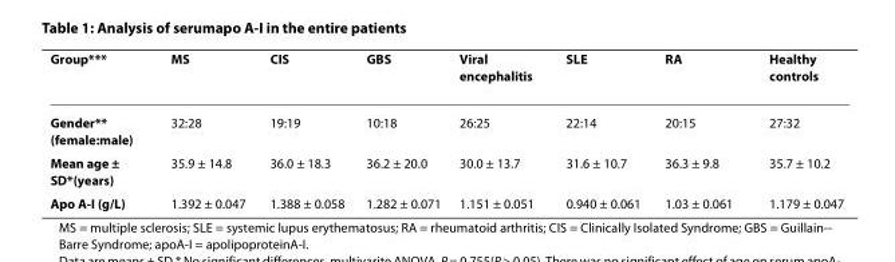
<table><thead><tr><td>Group***</td><td>MS</td><td>CIS</td><td>GBS</td><td>Viral encephalitis</td><td>SLE</td><td>RA</td><td>Healthy controls</td></tr></thead><tbody><tr><td>Gender** (female:male)</td><td>32:28</td><td>19:19</td><td>10:18</td><td>26:25</td><td>22:14</td><td>20:15</td><td>27:32</td></tr><tr><td>Mean age ± SD*(years)</td><td>35.9 ± 14.8</td><td>36.0 ± 18.3</td><td>36.2 ± 20.0</td><td>30.0 ± 13.7</td><td>31.6 ± 10.7</td><td>36.3 ± 9.8</td><td>35.7 ± 10.2</td></tr><tr><td>Apo A-I (g/L)</td><td>1.392 ± 0.047</td><td>1.388 ± 0.058</td><td>1.282 ± 0.071</td><td>1.151 ± 0.051</td><td>0.940 ± 0.061</td><td>1.03 ± 0.061</td><td>1.179 ± 0.047</td></tr></tbody></table>